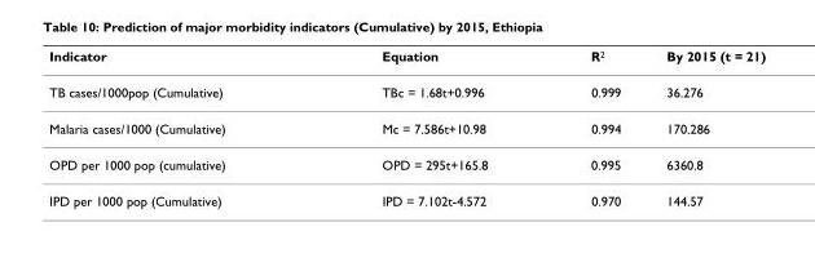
<table><thead><tr><td>Indicator</td><td>Equation</td><td>R<sup>2</sup></td><td>By 2015 (t = 21)</td></tr></thead><tbody><tr><td>TB cases/1000pop (Cumulative)</td><td>TBc = 1.68t+0.996</td><td>0.999</td><td>36.276</td></tr><tr><td>Malaria cases/1000 (Cumulative)</td><td>Mc = 7.586t+10.98</td><td>0.994</td><td>170.286</td></tr><tr><td>OPD per 1000 pop (cumulative)</td><td>OPD = 295t+165.8</td><td>0.995</td><td>6360.8</td></tr><tr><td>IPD per 1000 pop (Cumulative)</td><td>IPD = 7.102t-4.572</td><td>0.970</td><td>144.57</td></tr></tbody></table>